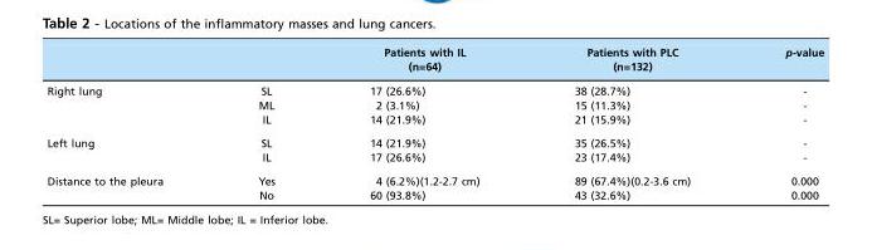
<table><thead><tr><td></td><td></td><td>Patients with IL (n=64)</td><td>Patients with PLC (n=132)</td><td>p-value</td></tr></thead><tbody><tr><td rowspan="3">Right lung</td><td>SL</td><td>17 (26.6%)</td><td>38 (28.7%)</td><td>-</td></tr><tr><td>ML</td><td>2 (3.1%)</td><td>15 (11.3%)</td><td>-</td></tr><tr><td>IL</td><td>14 (21.9%)</td><td>21 (15.9%)</td><td>-</td></tr><tr><td rowspan="2">Left lung</td><td>SL</td><td>14 (21.9%)</td><td>35 (26.5%)</td><td>-</td></tr><tr><td>IL</td><td>17 (26.6%)</td><td>23 (17.4%)</td><td>-</td></tr><tr><td rowspan="2">Distance to the pleura</td><td>Yes</td><td>4 (6.2%)(1.2-2.7 cm)</td><td>89 (67.4%)(0.2-3.6 cm)</td><td>0.000</td></tr><tr><td>No</td><td>60 (93.8%)</td><td>43 (32.6%)</td><td>0.000</td></tr></tbody></table>